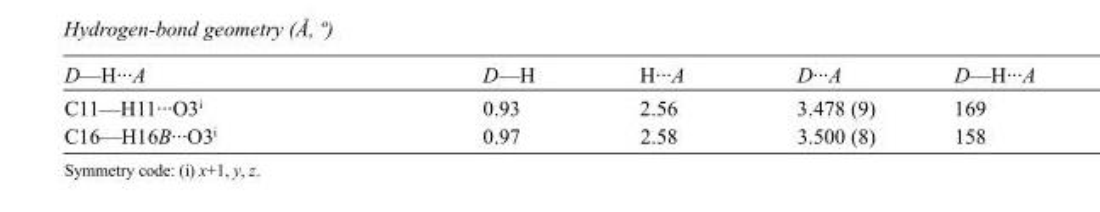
<table><tbody><tr><td>D—H···A</td><td>D—H</td><td>H···A</td><td>D···A</td><td>D—H···A</td></tr><tr><td>C11—H11···O3<sup>i</sup></td><td>0.93</td><td>2.56</td><td>3.478 (9)</td><td>169</td></tr><tr><td>C16—H16B···O3<sup>i</sup></td><td>0.97</td><td>2.58</td><td>3.500 (8)</td><td>158</td></tr></tbody></table>